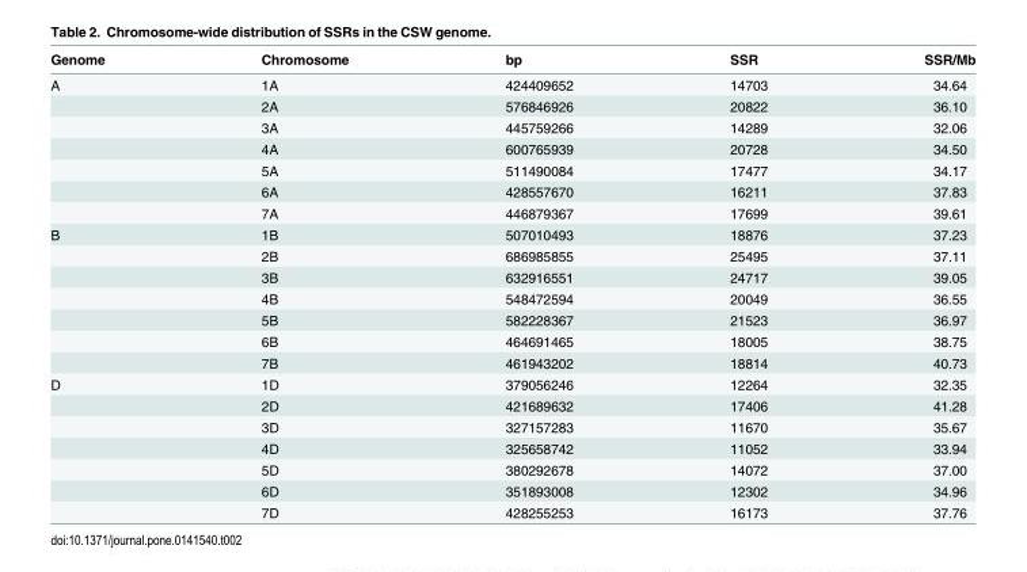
<table><thead><tr><td>Genome</td><td>Chromosome</td><td>bp</td><td>SSR</td><td>SSR/Mb</td></tr></thead><tbody><tr><td rowspan="7">A</td><td>1A</td><td>424409652</td><td>14703</td><td>34.64</td></tr><tr><td>2A</td><td>576846926</td><td>20822</td><td>36.10</td></tr><tr><td>3A</td><td>445759266</td><td>14289</td><td>32.06</td></tr><tr><td>4A</td><td>600765939</td><td>20728</td><td>34.50</td></tr><tr><td>5A</td><td>511490084</td><td>17477</td><td>34.17</td></tr><tr><td>6A</td><td>428557670</td><td>16211</td><td>37.83</td></tr><tr><td>7A</td><td>446879367</td><td>17699</td><td>39.61</td></tr><tr><td rowspan="7">B</td><td>1B</td><td>507010493</td><td>18876</td><td>37.23</td></tr><tr><td>2B</td><td>686985855</td><td>25495</td><td>37.11</td></tr><tr><td>3B</td><td>632916551</td><td>24717</td><td>39.05</td></tr><tr><td>4B</td><td>548472594</td><td>20049</td><td>36.55</td></tr><tr><td>5B</td><td>582228367</td><td>21523</td><td>36.97</td></tr><tr><td>6B</td><td>464691465</td><td>18005</td><td>38.75</td></tr><tr><td>7B</td><td>461943202</td><td>18814</td><td>40.73</td></tr><tr><td rowspan="7">D</td><td>1D</td><td>379056246</td><td>12264</td><td>32.35</td></tr><tr><td>2D</td><td>421689632</td><td>17406</td><td>41.28</td></tr><tr><td>3D</td><td>327157283</td><td>11670</td><td>35.67</td></tr><tr><td>4D</td><td>325658742</td><td>11052</td><td>33.94</td></tr><tr><td>5D</td><td>380292678</td><td>14072</td><td>37.00</td></tr><tr><td>6D</td><td>351893008</td><td>12302</td><td>34.96</td></tr><tr><td>7D</td><td>428255253</td><td>16173</td><td>37.76</td></tr></tbody></table>